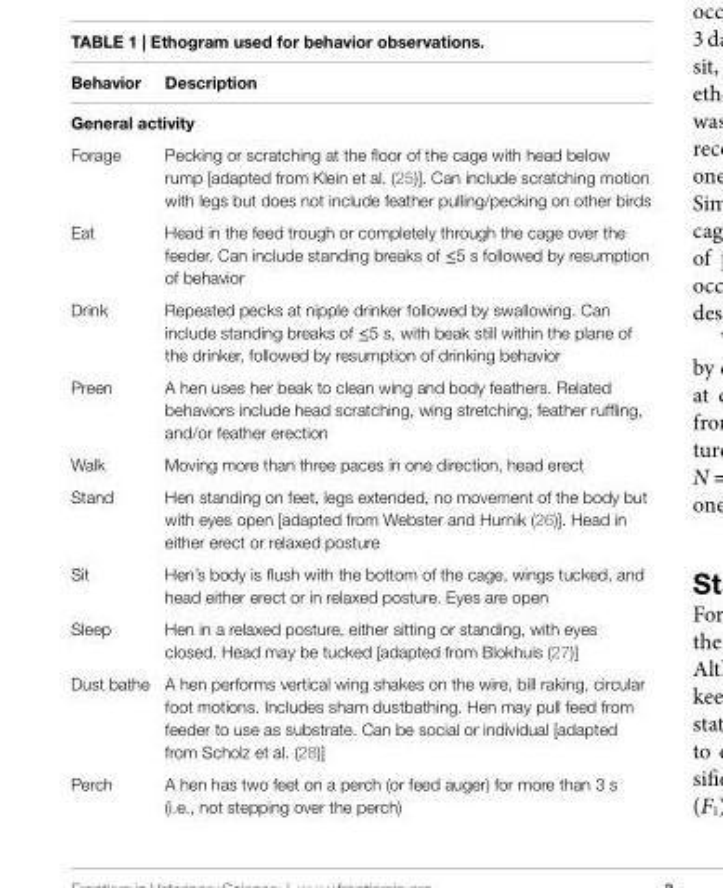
<table><thead><tr><td>Behavior</td><td>Description</td></tr></thead><tbody><tr><td colspan="2">general activity</td></tr><tr><td>Forage</td><td>Pecking or scratching at the floor of the cage with head below rump [adapted from Klein et al. (25)]. Can include scratching motion with legs but does not include feather pulling/pecking on other birds</td></tr><tr><td>Eat</td><td>Head in the feed trough or completely through the cage over the feeder. Can include standing breaks of ≤5 s followed by resumption of behavior</td></tr><tr><td>Drink</td><td>Repeated pecks at nipple drinker followed by swallowing. Can include standing breaks of ≤5 s, with beak still within the plane of the drinker, followed by resumption of drinking behavior</td></tr><tr><td>Preen</td><td>A hen uses her beak to clean wing and body feathers. Related behaviors include head scratching, wing stretching, feather ruffling, and/or feather erection</td></tr><tr><td>Walk</td><td>Moving more than three paces in one direction, head erect</td></tr><tr><td>Stand</td><td>Hen standing on feet, legs extended, no movement of the body but with eyes open [adapted from Webster and Hurnik (26)]. Head in either erect or relaxed posture</td></tr><tr><td>Sit</td><td>Hen’s body is flush with the bottom of the cage, wings tucked, and head either erect or in relaxed posture. Eyes are open</td></tr><tr><td>Sleep</td><td>Hen in a relaxed posture, either sitting or standing, with eyes closed. Head may be tucked [adapted from Blokhuis (27)]</td></tr><tr><td>Dust bathe</td><td>A hen performs vertical wing shakes on the wire, bill raking, circular foot motions. Includes sham dustbathing. Hen may pull feed from feeder to use as substrate. Can be social or individual [adapted from Scholz et al. (28)]</td></tr><tr><td>Perch</td><td>A hen has two feet on a perch (or feed auger) for more than 3 s (i.e., not stepping over the perch)</td></tr></tbody></table>